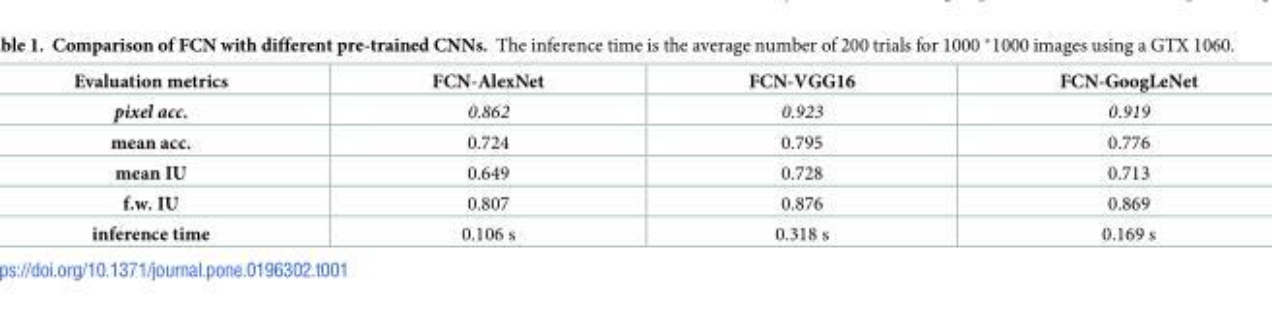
<table><thead><tr><td>Evaluation metrics</td><td>FCN-AlexNet</td><td>FCN-VGG16</td><td>FCN-GoogLeNet</td></tr></thead><tbody><tr><td>pixel acc.</td><td>0.862</td><td>0.923</td><td>0.919</td></tr><tr><td>mean acc.</td><td>0.724</td><td>0.795</td><td>0.776</td></tr><tr><td>mean IU</td><td>0.649</td><td>0.728</td><td>0.713</td></tr><tr><td>f.w. IU</td><td>0.807</td><td>0.876</td><td>0.869</td></tr><tr><td>inference time</td><td>0.106 s</td><td>0.318 s</td><td>0.169 s</td></tr></tbody></table>